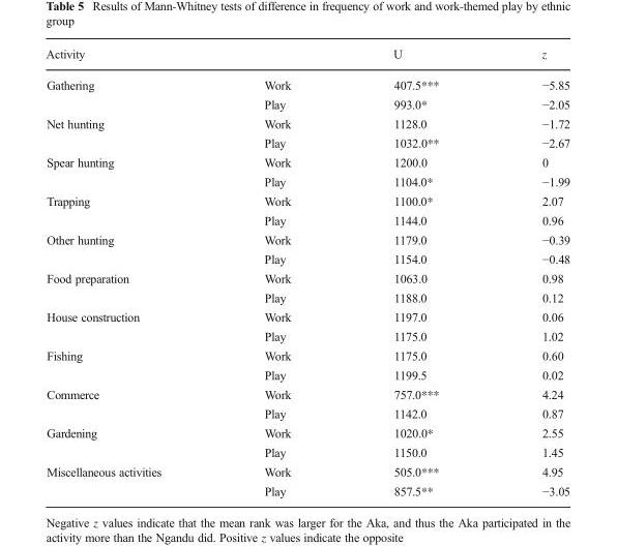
<table><thead><tr><td>Activity</td><td></td><td>U</td><td>z</td></tr></thead><tbody><tr><td rowspan="2">Gathering</td><td>Work</td><td>407.5***</td><td>−5.85</td></tr><tr><td>Play</td><td>993.0*</td><td>−2.05</td></tr><tr><td rowspan="2">Net hunting</td><td>Work</td><td>1128.0</td><td>−1.72</td></tr><tr><td>Play</td><td>1032.0**</td><td>−2.67</td></tr><tr><td rowspan="2">Spear hunting</td><td>Work</td><td>1200.0</td><td>0</td></tr><tr><td>Play</td><td>1104.0*</td><td>−1.99</td></tr><tr><td rowspan="2">Trapping</td><td>Work</td><td>1100.0*</td><td>2.07</td></tr><tr><td>Play</td><td>1144.0</td><td>0.96</td></tr><tr><td rowspan="2">Other hunting</td><td>Work</td><td>1179.0</td><td>−0.39</td></tr><tr><td>Play</td><td>1154.0</td><td>−0.48</td></tr><tr><td rowspan="2">Food preparation</td><td>Work</td><td>1063.0</td><td>0.98</td></tr><tr><td>Play</td><td>1188.0</td><td>0.12</td></tr><tr><td rowspan="2">House construction</td><td>Work</td><td>1197.0</td><td>0.06</td></tr><tr><td>Play</td><td>1175.0</td><td>1.02</td></tr><tr><td rowspan="2">Fishing</td><td>Work</td><td>1175.0</td><td>0.60</td></tr><tr><td>Play</td><td>1199.5</td><td>0.02</td></tr><tr><td rowspan="2">Commerce</td><td>Work</td><td>757.0***</td><td>4.24</td></tr><tr><td>Play</td><td>1142.0</td><td>0.87</td></tr><tr><td rowspan="2">Gardening</td><td>Work</td><td>1020.0*</td><td>2.55</td></tr><tr><td>Play</td><td>1150.0</td><td>1.45</td></tr><tr><td rowspan="2">Miscellaneous activities</td><td>Work</td><td>505.0***</td><td>4.95</td></tr><tr><td>Play</td><td>857.5**</td><td>−3.05</td></tr></tbody></table>